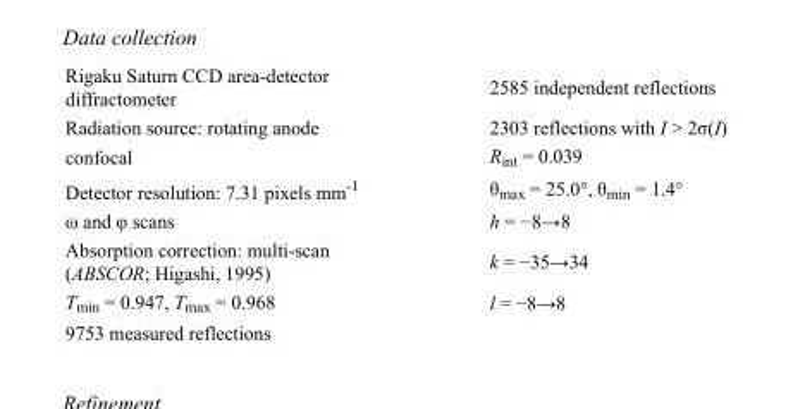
<table><tbody><tr><td>Rigaku Saturn CCD area-detector diffractometer</td><td>2585 independent reflections</td></tr><tr><td>Radiation source: rotating anode</td><td>2303 reflections with I &gt; 2σ(I)</td></tr><tr><td>confocal</td><td>R<sub>int</sub> = 0.039</td></tr><tr><td>Detector resolution: 7.31 pixels mm<sup>-1</sup></td><td>θ<sub>max</sub> = 25.0°, θ<sub>min</sub> = 1.4°</td></tr><tr><td>ω and φ scans</td><td>h = −8→8</td></tr><tr><td>Absorption correction: multi-scan (ABSCOR; Higashi, 1995)</td><td>k = −35→34</td></tr><tr><td>T<sub>min</sub> = 0.947, T<sub>max</sub> = 0.968</td><td>l = −8→8</td></tr><tr><td>9753 measured reflections</td><td></td></tr></tbody></table>